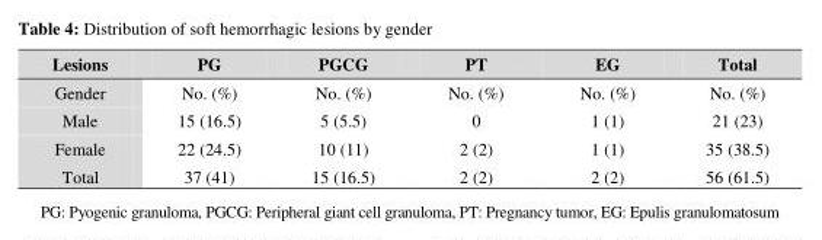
<table><thead><tr><td>Lesions</td><td>PG</td><td>PGCG</td><td>PT</td><td>EG</td><td>Total</td></tr></thead><tbody><tr><td>Gender</td><td>No. (%)</td><td>No. (%)</td><td>No. (%)</td><td>No. (%)</td><td>No. (%)</td></tr><tr><td>Male</td><td>15 (16.5)</td><td>5 (5.5)</td><td>0</td><td>1 (1)</td><td>21 (23)</td></tr><tr><td>Female</td><td>22 (24.5)</td><td>10 (11)</td><td>2 (2)</td><td>1 (1)</td><td>35 (38.5)</td></tr><tr><td>Total</td><td>37 (41)</td><td>15 (16.5)</td><td>2 (2)</td><td>2 (2)</td><td>56 (61.5)</td></tr></tbody></table>